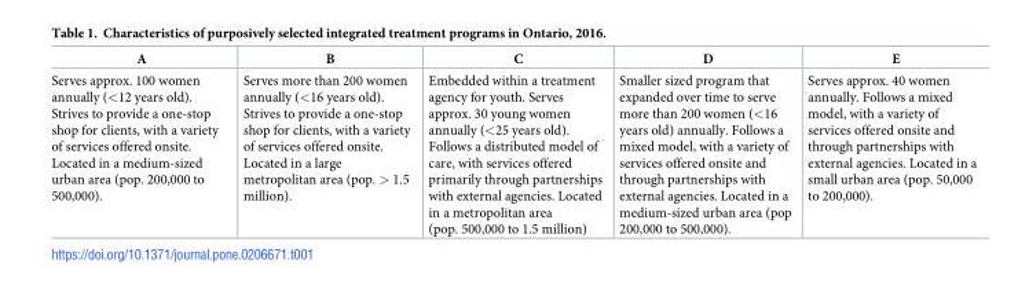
<table><thead><tr><td>A</td><td>B</td><td>C</td><td>D</td><td>E</td></tr></thead><tbody><tr><td>Serves approx. 100 women annually (&lt;12 years old). Strives to provide a one-stop shop for clients, with a variety of services offered onsite. Located in a medium-sized urban area (pop. 200,000 to 500,000).</td><td>Serves more than 200 women annually (&lt;16 years old). Strives to provide a one-stop shop for clients, with a variety of services offered onsite. Located in a large metropolitan area (pop. &gt; 1.5 million).</td><td>Embedded within a treatment agency for youth. Serves approx. 30 young women annually (&lt;25 years old). Follows a distributed model of care, with services offered primarily through partnerships with external agencies. Located in a metropolitan area (pop. 500,000 to 1.5 million)</td><td>Smaller sized program that expanded over time to serve more than 200 women (&lt;16 years old) annually. Follows a mixed model, with a variety of services offered onsite and through partnerships with external agencies. Located in a medium-sized urban area (pop 200,000 to 500,000).</td><td>Serves approx. 40 women annually. Follows a mixed model, with a variety of services offered onsite and through partnerships with external agencies. Located in a small urban area (pop. 50,000 to 200,000).</td></tr></tbody></table>